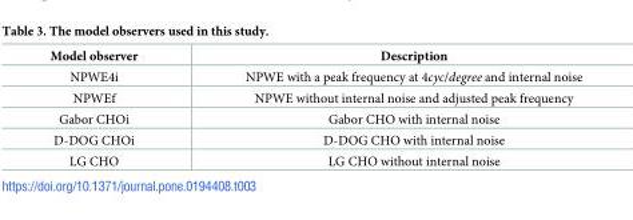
<table><thead><tr><td>Model observer</td><td>Description</td></tr></thead><tbody><tr><td>NPWE4i</td><td>NPWE with a peak frequency at 4cyc/degree and internal noise</td></tr><tr><td>NPWEf</td><td>NPWE without internal noise and adjusted peak frequency</td></tr><tr><td>Gabor CHOi</td><td>Gabor CHO with internal noise</td></tr><tr><td>D-DOG CHOi</td><td>D-DOG CHO with internal noise</td></tr><tr><td>LG CHO</td><td>LG CHO without internal noise</td></tr></tbody></table>